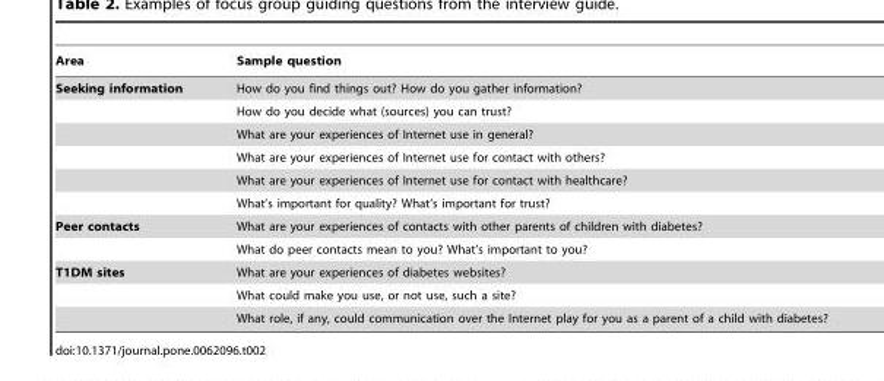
<table><thead><tr><td>Area</td><td>Sample question</td></tr></thead><tbody><tr><td rowspan="6">Seeking information</td><td>How do you find things out? How do you gather information?</td></tr><tr><td>How do you decide what (sources) you can trust?</td></tr><tr><td>What are your experiences of Internet use in general?</td></tr><tr><td>What are your experiences of Internet use for contact with others?</td></tr><tr><td>What are your experiences of Internet use for contact with healthcare?</td></tr><tr><td>What’s important for quality? What’s important for trust?</td></tr><tr><td rowspan="2">Peer contacts</td><td>What are your experiences of contacts with other parents of children with diabetes?</td></tr><tr><td>What do peer contacts mean to you? What’s important to you?</td></tr><tr><td rowspan="3">T1DM sites</td><td>What are your experiences of diabetes websites?</td></tr><tr><td>What could make you use, or not use, such a site?</td></tr><tr><td>What role, if any, could communication over the Internet play for you as a parent of a child with diabetes?</td></tr></tbody></table>